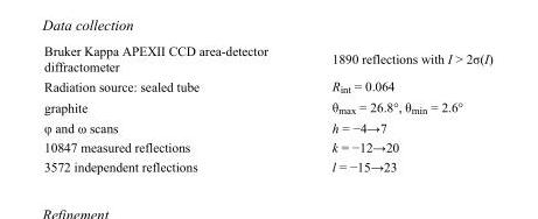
<table><tbody><tr><td>Bruker Kappa APEXII CCD area-detector diffractometer</td><td>1890 reflections with I &gt; 2σ(I)</td></tr><tr><td>Radiation source: sealed tube</td><td>R<sub>int</sub> = 0.064</td></tr><tr><td>graphite</td><td>θ<sub>max</sub> = 26.8°, θ<sub>min</sub> = 2.6°</td></tr><tr><td>φ and ω scans</td><td>h = −4→7</td></tr><tr><td>10847 measured reflections</td><td>k = −12→20</td></tr><tr><td>3572 independent reflections</td><td>l = −15→23</td></tr></tbody></table>